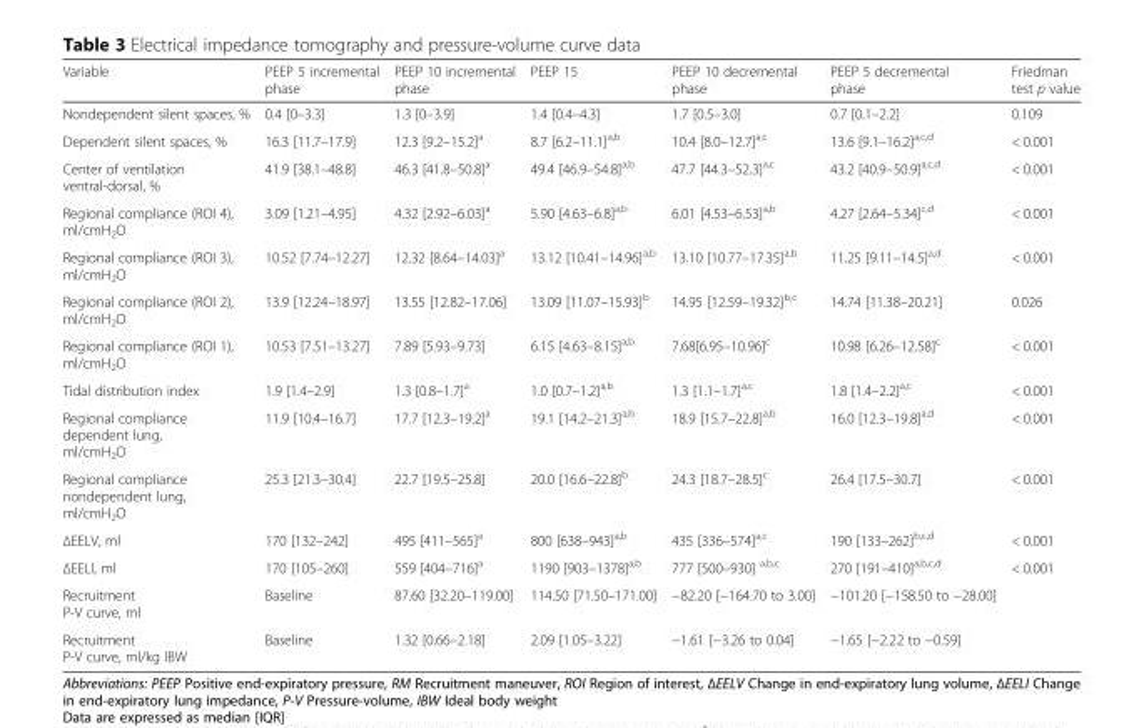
<table><thead><tr><td>Variable</td><td>PEEP 5 incremental phase</td><td>PEEP 10 incremental phase</td><td>PEEP 15</td><td>PEEP 10 decremental phase</td><td>PEEP 5 decremental phase</td><td>Friedman test p value</td></tr></thead><tbody><tr><td>Nondependent silent spaces, %</td><td>0.4 [0–3.3]</td><td>1.3 [0–3.9]</td><td>1.4 [0.4–4.3]</td><td>1.7 [0.5–3.0]</td><td>0.7 [0.1–2.2]</td><td>0.109</td></tr><tr><td>Dependent silent spaces, %</td><td>16.3 [11.7–17.9]</td><td>12.3 [9.2–15.2]<sup>a</sup></td><td>8.7 [6.2–11.1]<sup>a,b</sup></td><td>10.4 [8.0–12.7]<sup>a,c</sup></td><td>13.6 [9.1–16.2]<sup>a,c,d</sup></td><td>&lt; 0.001</td></tr><tr><td>Center of ventilation ventral-dorsal, %</td><td>41.9 [38.1–48.8]</td><td>46.3 [41.8–50.8]<sup>a</sup></td><td>49.4 [46.9–54.8]<sup>a,b</sup></td><td>47.7 [44.3–52.3]<sup>a,c</sup></td><td>43.2 [40.9–50.9]<sup>a,c,d</sup></td><td>&lt; 0.001</td></tr><tr><td>Regional compliance (ROI 4), ml/cmH<sub>2</sub>O</td><td>3.09 [1.21–4.95]</td><td>4.32 [2.92–6.03]<sup>a</sup></td><td>5.90 [4.63–6.8]<sup>a,b</sup></td><td>6.01 [4.53–6.53]<sup>a,b</sup></td><td>4.27 [2.64–5.34]<sup>c,d</sup></td><td>&lt; 0.001</td></tr><tr><td>Regional compliance (ROI 3), ml/cmH<sub>2</sub>O</td><td>10.52 [7.74–12.27]</td><td>12.32 [8.64–14.03]<sup>a</sup></td><td>13.12 [10.41–14.96]<sup>a,b</sup></td><td>13.10 [10.77–17.35]<sup>a,b</sup></td><td>11.25 [9.11–14.5]<sup>a,d</sup></td><td>&lt; 0.001</td></tr><tr><td>Regional compliance (ROI 2), ml/cmH<sub>2</sub>O</td><td>13.9 [12.24–18.97]</td><td>13.55 [12.82–17.06]</td><td>13.09 [11.07–15.93]<sup>b</sup></td><td>14.95 [12.59–19.32]<sup>b,c</sup></td><td>14.74 [11.38–20.21]</td><td>0.026</td></tr><tr><td>Regional compliance (ROI 1), ml/cmH<sub>2</sub>O</td><td>10.53 [7.51–13.27]</td><td>7.89 [5.93–9.73]</td><td>6.15 [4.63–8.15]<sup>a,b</sup></td><td>7.68[6.95–10.96]<sup>c</sup></td><td>10.98 [6.26–12.58]<sup>c</sup></td><td>&lt; 0.001</td></tr><tr><td>Tidal distribution index</td><td>1.9 [1.4–2.9]</td><td>1.3 [0.8–1.7]<sup>a</sup></td><td>1.0 [0.7–1.2]<sup>a,b</sup></td><td>1.3 [1.1–1.7]<sup>a,c</sup></td><td>1.8 [1.4–2.2]<sup>a,c</sup></td><td>&lt; 0.001</td></tr><tr><td>Regional compliance dependent lung, ml/cmH<sub>2</sub>O</td><td>11.9 [10.4–16.7]</td><td>17.7 [12.3–19.2]<sup>a</sup></td><td>19.1 [14.2–21.3]<sup>a,b</sup></td><td>18.9 [15.7–22.8]<sup>a,b</sup></td><td>16.0 [12.3–19.8]<sup>a,d</sup></td><td>&lt; 0.001</td></tr><tr><td>Regional compliance nondependent lung, ml/cmH<sub>2</sub>O</td><td>25.3 [21.3–30.4]</td><td>22.7 [19.5–25.8]</td><td>20.0 [16.6–22.8]<sup>b</sup></td><td>24.3 [18.7–28.5]<sup>c</sup></td><td>26.4 [17.5–30.7]</td><td>&lt; 0.001</td></tr><tr><td>ΔEELV, ml</td><td>170 [132–242]</td><td>495 [411–565]<sup>a</sup></td><td>800 [638–943]<sup>a,b</sup></td><td>435 [336–574]<sup>a,c</sup></td><td>190 [133–262]<sup>b,c,d</sup></td><td>&lt; 0.001</td></tr><tr><td>ΔEELI, ml</td><td>170 [105–260]</td><td>559 [404–716]<sup>a</sup></td><td>1190 [903–1378]<sup>a,b</sup></td><td>777 [500–930] <sup>a,b,c</sup></td><td>270 [191–410]<sup>a,b,c,d</sup></td><td>&lt; 0.001</td></tr><tr><td>Recruitment P-V curve, ml</td><td>Baseline</td><td>87.60 [32.20–119.00]</td><td>114.50 [71.50–171.00]</td><td>−82.20 [−164.70 to 3.00]</td><td>−101.20 [−158.50 to −28.00]</td><td></td></tr><tr><td>Recruitment P-V curve, ml/kg IBW</td><td>Baseline</td><td>1.32 [0.66–2.18]</td><td>2.09 [1.05–3.22]</td><td>−1.61 [−3.26 to 0.04]</td><td>−1.65 [−2.22 to −0.59]</td><td></td></tr></tbody></table>